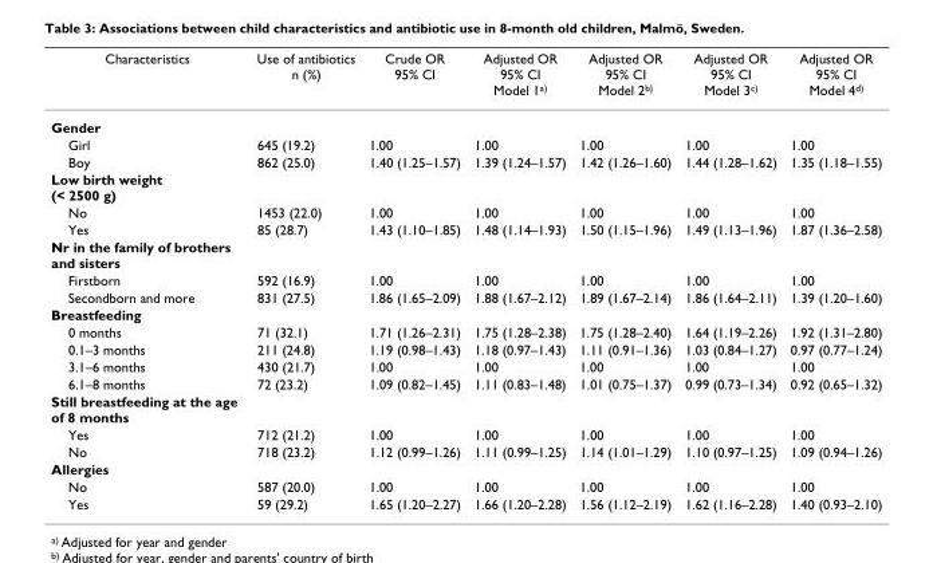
<table><thead><tr><td>Characteristics</td><td>Use of antibiotics n (%)</td><td>Crude OR 95% CI</td><td>Adjusted OR 95% CI Model 1<sup>a)</sup></td><td>Adjusted OR 95% CI Model 2<sup>b)</sup></td><td>Adjusted OR 95% CI Model 3<sup>c)</sup></td><td>Adjusted OR 95% CI Model 4<sup>d)</sup></td></tr></thead><tbody><tr><td colspan="7">Gender</td></tr><tr><td>Girl</td><td>645 (19.2)</td><td>1.00</td><td>1.00</td><td>1.00</td><td>1.00</td><td>1.00</td></tr><tr><td>Boy</td><td>862 (25.0)</td><td>1.40 (1.25–1.57)</td><td>1.39 (1.24–1.57)</td><td>1.42 (1.26–1.60)</td><td>1.44 (1.28–1.62)</td><td>1.35 (1.18–1.55)</td></tr><tr><td colspan="7">Low birth weight (&lt; 2500 g)</td></tr><tr><td>No</td><td>1453 (22.0)</td><td>1.00</td><td>1.00</td><td>1.00</td><td>1.00</td><td>1.00</td></tr><tr><td>Yes</td><td>85 (28.7)</td><td>1.43 (1.10–1.85)</td><td>1.48 (1.14–1.93)</td><td>1.50 (1.15–1.96)</td><td>1.49 (1.13–1.96)</td><td>1.87 (1.36–2.58)</td></tr><tr><td colspan="7">Nr in the family of brothers and sisters</td></tr><tr><td>Firstborn</td><td>592 (16.9)</td><td>1.00</td><td>1.00</td><td>1.00</td><td>1.00</td><td>1.00</td></tr><tr><td>Secondborn and more</td><td>831 (27.5)</td><td>1.86 (1.65–2.09)</td><td>1.88 (1.67–2.12)</td><td>1.89 (1.67–2.14)</td><td>1.86 (1.64–2.11)</td><td>1.39 (1.20–1.60)</td></tr><tr><td colspan="7">Breastfeeding</td></tr><tr><td>0 months</td><td>71 (32.1)</td><td>1.71 (1.26–2.31)</td><td>1.75 (1.28–2.38)</td><td>1.75 (1.28–2.40)</td><td>1.64 (1.19–2.26)</td><td>1.92 (1.31–2.80)</td></tr><tr><td>0.1–3 months</td><td>211 (24.8)</td><td>1.19 (0.98–1.43)</td><td>1.18 (0.97–1.43)</td><td>1.11 (0.91–1.36)</td><td>1.03 (0.84–1.27)</td><td>0.97 (0.77–1.24)</td></tr><tr><td>3.1–6 months</td><td>430 (21.7)</td><td>1.00</td><td>1.00</td><td>1.00</td><td>1.00</td><td>1.00</td></tr><tr><td>6.1–8 months</td><td>72 (23.2)</td><td>1.09 (0.82–1.45)</td><td>1.11 (0.83–1.48)</td><td>1.01 (0.75–1.37)</td><td>0.99 (0.73–1.34)</td><td>0.92 (0.65–1.32)</td></tr><tr><td colspan="7">Still breastfeeding at the age of 8 months</td></tr><tr><td>Yes</td><td>712 (21.2)</td><td>1.00</td><td>1.00</td><td>1.00</td><td>1.00</td><td>1.00</td></tr><tr><td>No</td><td>718 (23.2)</td><td>1.12 (0.99–1.26)</td><td>1.11 (0.99–1.25)</td><td>1.14 (1.01–1.29)</td><td>1.10 (0.97–1.25)</td><td>1.09 (0.94–1.26)</td></tr><tr><td colspan="7">Allergies</td></tr><tr><td>No</td><td>587 (20.0)</td><td>1.00</td><td>1.00</td><td>1.00</td><td>1.00</td><td>1.00</td></tr><tr><td>Yes</td><td>59 (29.2)</td><td>1.65 (1.20–2.27)</td><td>1.66 (1.20–2.28)</td><td>1.56 (1.12–2.19)</td><td>1.62 (1.16–2.28)</td><td>1.40 (0.93–2.10)</td></tr></tbody></table>